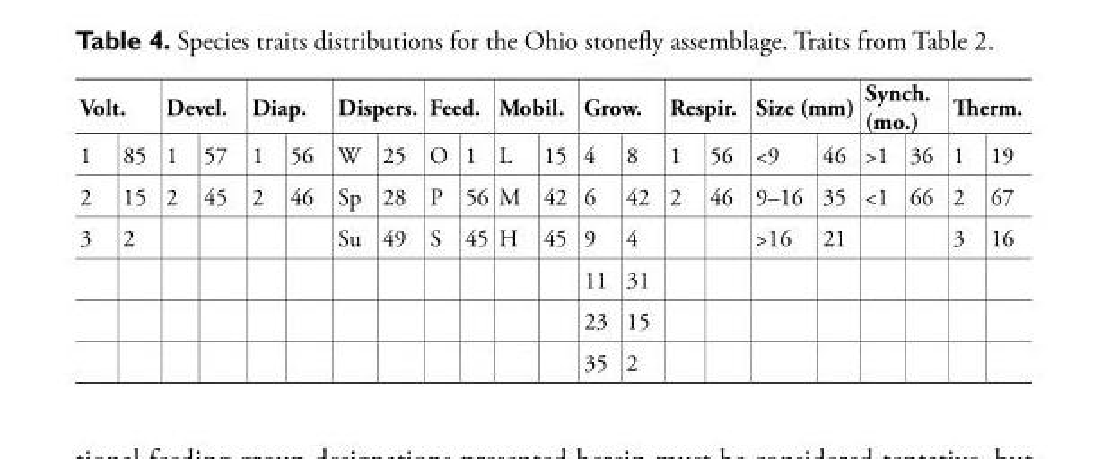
<table><tbody><tr><td colspan="2">Volt.</td><td colspan="2">Devel.</td><td colspan="2">Diap.</td><td colspan="2">Dispers.</td><td colspan="2">Feed.</td><td colspan="2">Mobil.</td><td colspan="2">Grow.</td><td colspan="2">Respir.</td><td colspan="2">Size (mm)</td><td colspan="2">Synch. (mo.)</td><td colspan="2">Therm.</td></tr><tr><td>1</td><td>85</td><td>1</td><td>57</td><td>1</td><td>56</td><td>W</td><td>25</td><td>O</td><td>1</td><td>L</td><td>15</td><td>4</td><td>8</td><td>1</td><td>56</td><td>&lt;9</td><td>46</td><td>&gt;1</td><td>36</td><td>1</td><td>19</td></tr><tr><td>2</td><td>15</td><td>2</td><td>45</td><td>2</td><td>46</td><td>Sp</td><td>28</td><td>P</td><td>56</td><td>M</td><td>42</td><td>6</td><td>42</td><td>2</td><td>46</td><td>9–16</td><td>35</td><td>&lt;1</td><td>66</td><td>2</td><td>67</td></tr><tr><td rowspan="4">3</td><td>2</td><td></td><td></td><td></td><td></td><td>Su</td><td>49</td><td>S</td><td>45</td><td>H</td><td>45</td><td>9</td><td>4</td><td></td><td></td><td>&gt;16</td><td>21</td><td></td><td></td><td>3</td><td>16</td></tr><tr><td></td><td></td><td></td><td></td><td></td><td></td><td></td><td></td><td></td><td></td><td></td><td>11</td><td>31</td><td></td><td></td><td></td><td></td><td></td><td></td><td></td><td></td></tr><tr><td></td><td></td><td></td><td></td><td></td><td></td><td></td><td></td><td></td><td></td><td></td><td>23</td><td>15</td><td></td><td></td><td></td><td></td><td></td><td></td><td></td><td></td></tr><tr><td></td><td></td><td></td><td></td><td></td><td></td><td></td><td></td><td></td><td></td><td></td><td>35</td><td>2</td><td></td><td></td><td></td><td></td><td></td><td></td><td></td><td></td></tr></tbody></table>